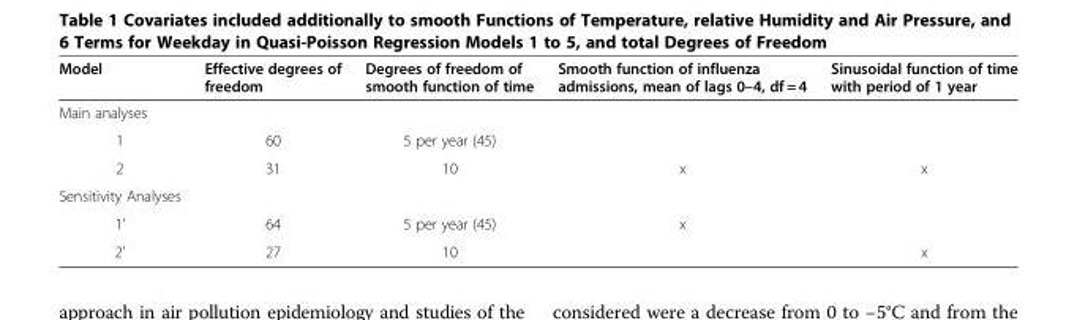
<table><thead><tr><td>Model</td><td>Effective degrees of freedom</td><td>Degrees of freedom of smooth function of time</td><td>Smooth function of influenza admissions, mean of lags 0–4, df = 4</td><td>Sinusoidal function of time with period of 1 year</td></tr></thead><tbody><tr><td colspan="5">Main analyses</td></tr><tr><td>1</td><td>60</td><td>5 per year (45)</td><td></td><td></td></tr><tr><td>2</td><td>31</td><td>10</td><td>x</td><td>x</td></tr><tr><td colspan="5">Sensitivity Analyses</td></tr><tr><td>1’</td><td>64</td><td>5 per year (45)</td><td>x</td><td></td></tr><tr><td>2’</td><td>27</td><td>10</td><td></td><td>x</td></tr></tbody></table>